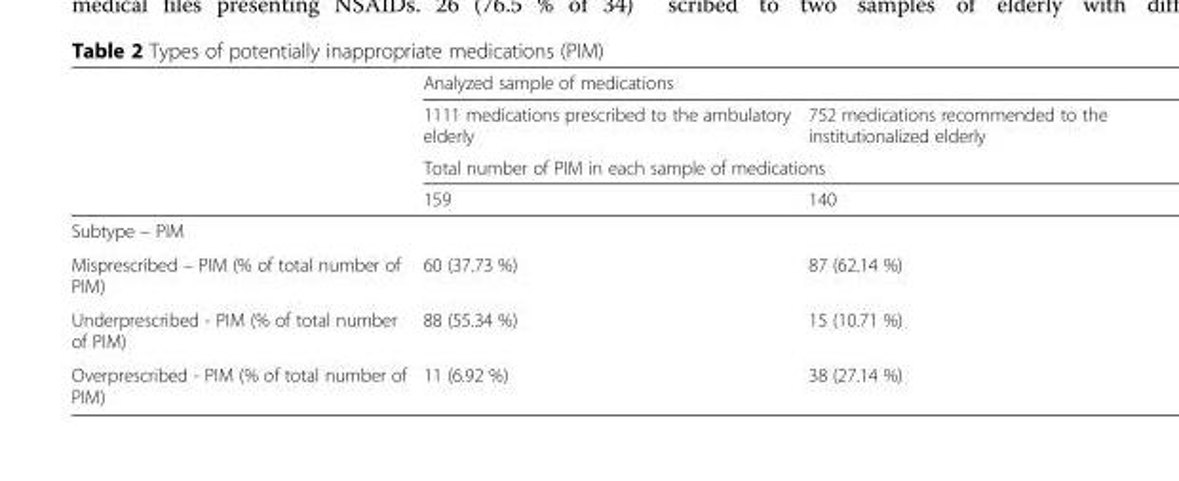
<table><thead><tr><td rowspan="4"></td><td colspan="2">Analyzed sample of medications</td></tr><tr><td>1111 medications prescribed to the ambulatory elderly</td><td>752 medications recommended to the institutionalized elderly</td></tr><tr><td colspan="2">Total number of PIM in each sample of medications</td></tr><tr><td>159</td><td>140</td></tr></thead><tbody><tr><td colspan="3">Subtype – PIM</td></tr><tr><td>Misprescribed – PIM (% of total number of PIM)</td><td>60 (37.73 %)</td><td>87 (62.14 %)</td></tr><tr><td>Underprescribed - PIM (% of total number of PIM)</td><td>88 (55.34 %)</td><td>15 (10.71 %)</td></tr><tr><td>Overprescribed - PIM (% of total number of PIM)</td><td>11 (6.92 %)</td><td>38 (27.14 %)</td></tr></tbody></table>